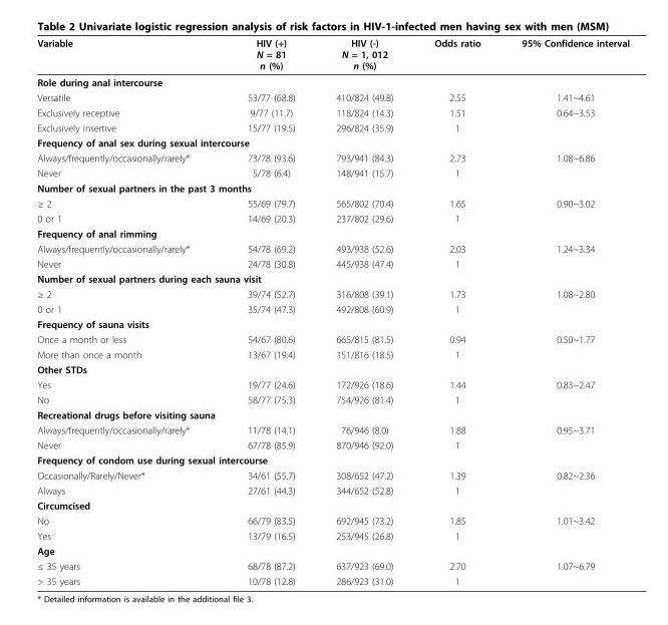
<table><thead><tr><td>Variable</td><td>HIV (+) N = 81 n (%)</td><td>HIV (-) N = 1, 012 n (%)</td><td>Odds ratio</td><td>95% Confidence interval</td></tr></thead><tbody><tr><td colspan="5">Role during anal intercourse</td></tr><tr><td>Versatile</td><td>53/77 (68.8)</td><td>410/824 (49.8)</td><td>2.55</td><td>1.41~4.61</td></tr><tr><td>Exclusively receptive</td><td>9/77 (11.7)</td><td>118/824 (14.3)</td><td>1.51</td><td>0.64~3.53</td></tr><tr><td>Exclusively insertive</td><td>15/77 (19.5)</td><td>296/824 (35.9)</td><td>1</td><td></td></tr><tr><td colspan="5">Frequency of anal sex during sexual intercourse</td></tr><tr><td>Always/frequently/occasionally/rarely*</td><td>73/78 (93.6)</td><td>793/941 (84.3)</td><td>2.73</td><td>1.08~6.86</td></tr><tr><td>Never</td><td>5/78 (6.4)</td><td>148/941 (15.7)</td><td>1</td><td></td></tr><tr><td colspan="5">Number of sexual partners in the past 3 months</td></tr><tr><td>≥ 2</td><td>55/69 (79.7)</td><td>565/802 (70.4)</td><td>1.65</td><td>0.90~3.02</td></tr><tr><td>0 or 1</td><td>14/69 (20.3)</td><td>237/802 (29.6)</td><td>1</td><td></td></tr><tr><td colspan="5">Frequency of anal rimming</td></tr><tr><td>Always/frequently/occasionally/rarely*</td><td>54/78 (69.2)</td><td>493/938 (52.6)</td><td>2.03</td><td>1.24~3.34</td></tr><tr><td>Never</td><td>24/78 (30.8)</td><td>445/938 (47.4)</td><td>1</td><td></td></tr><tr><td colspan="5">Number of sexual partners during each sauna visit</td></tr><tr><td>≥ 2</td><td>39/74 (52.7)</td><td>316/808 (39.1)</td><td>1.73</td><td>1.08~2.80</td></tr><tr><td>0 or 1</td><td>35/74 (47.3)</td><td>492/808 (60.9)</td><td>1</td><td></td></tr><tr><td colspan="5">Frequency of sauna visits</td></tr><tr><td>Once a month or less</td><td>54/67 (80.6)</td><td>665/815 (81.5)</td><td>0.94</td><td>0.50~1.77</td></tr><tr><td>More than once a month</td><td>13/67 (19.4)</td><td>151/816 (18.5)</td><td>1</td><td></td></tr><tr><td colspan="5">Other STDs</td></tr><tr><td>Yes</td><td>19/77 (24.6)</td><td>172/926 (18.6)</td><td>1.44</td><td>0.83~2.47</td></tr><tr><td>No</td><td>58/77 (75.3)</td><td>754/926 (81.4)</td><td>1</td><td></td></tr><tr><td colspan="5">Recreational drugs before visiting sauna</td></tr><tr><td>Always/frequently/occasionally/rarely*</td><td>11/78 (14.1)</td><td>76/946 (8.0)</td><td>1.88</td><td>0.95~3.71</td></tr><tr><td>Never</td><td>67/78 (85.9)</td><td>870/946 (92.0)</td><td>1</td><td></td></tr><tr><td colspan="5">Frequency of condom use during sexual intercourse</td></tr><tr><td>Occasionally/Rarely/Never*</td><td>34/61 (55.7)</td><td>308/652 (47.2)</td><td>1.39</td><td>0.82~2.36</td></tr><tr><td>Always</td><td>27/61 (44.3)</td><td>344/652 (52.8)</td><td>1</td><td></td></tr><tr><td colspan="5">Circumcised</td></tr><tr><td>No</td><td>66/79 (83.5)</td><td>692/945 (73.2)</td><td>1.85</td><td>1.01~3.42</td></tr><tr><td>Yes</td><td>13/79 (16.5)</td><td>253/945 (26.8)</td><td>1</td><td></td></tr><tr><td colspan="5">Age</td></tr><tr><td>≤ 35 years</td><td>68/78 (87.2)</td><td>637/923 (69.0)</td><td>2.70</td><td>1.07~6.79</td></tr><tr><td>&gt; 35 years</td><td>10/78 (12.8)</td><td>286/923 (31.0)</td><td>1</td><td></td></tr></tbody></table>